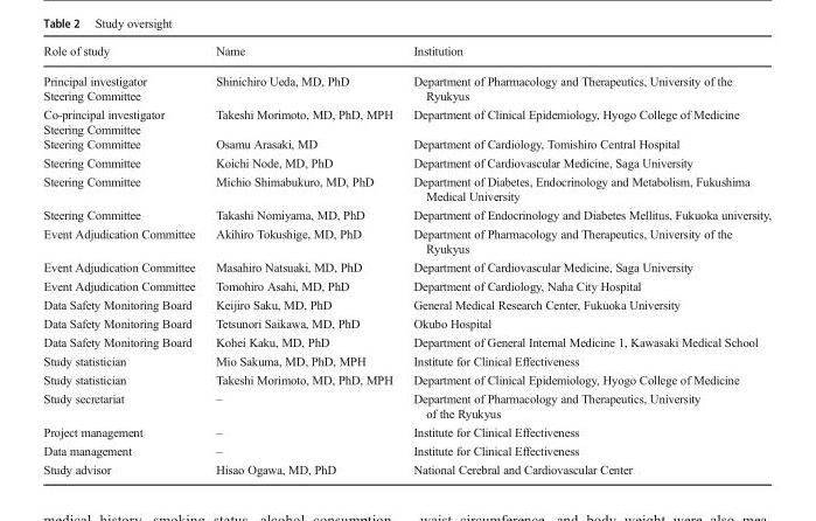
<table><thead><tr><td>Role of study</td><td>Name</td><td>Institution</td></tr></thead><tbody><tr><td>Principal investigator Steering Committee</td><td>Shinichiro Ueda, MD, PhD</td><td>Department of Pharmacology and Therapeutics, University of the Ryukyus</td></tr><tr><td>Co-principal investigator Steering Committee</td><td>Takeshi Morimoto, MD, PhD, MPH</td><td>Department of Clinical Epidemiology, Hyogo College of Medicine</td></tr><tr><td>Steering Committee</td><td>Osamu Arasaki, MD</td><td>Department of Cardiology, Tomishiro Central Hospital</td></tr><tr><td>Steering Committee</td><td>Koichi Node, MD, PhD</td><td>Department of Cardiovascular Medicine, Saga University</td></tr><tr><td>Steering Committee</td><td>Michio Shimabukuro, MD, PhD</td><td>Department of Diabetes, Endocrinology and Metabolism, Fukushima Medical University</td></tr><tr><td>Steering Committee</td><td>Takashi Nomiyama, MD, PhD</td><td>Department of Endocrinology and Diabetes Mellitus, Fukuoka university,</td></tr><tr><td>Event Adjudication Committee</td><td>Akihiro Tokushige, MD, PhD</td><td>Department of Pharmacology and Therapeutics, University of the Ryukyus</td></tr><tr><td>Event Adjudication Committee</td><td>Masahiro Natsuaki, MD, PhD</td><td>Department of Cardiovascular Medicine, Saga University</td></tr><tr><td>Event Adjudication Committee</td><td>Tomohiro Asahi, MD, PhD</td><td>Department of Cardiology, Naha City Hospital</td></tr><tr><td>Data Safety Monitoring Board</td><td>Keijiro Saku, MD, PhD</td><td>General Medical Research Center, Fukuoka University</td></tr><tr><td>Data Safety Monitoring Board</td><td>Tetsunori Saikawa, MD, PhD</td><td>Okubo Hospital</td></tr><tr><td>Data Safety Monitoring Board</td><td>Kohei Kaku, MD, PhD</td><td>Department of General Internal Medicine 1, Kawasaki Medical School</td></tr><tr><td>Study statistician</td><td>Mio Sakuma, MD, PhD, MPH</td><td>Institute for Clinical Effectiveness</td></tr><tr><td>Study statistician</td><td>Takeshi Morimoto, MD, PhD, MPH</td><td>Department of Clinical Epidemiology, Hyogo College of Medicine</td></tr><tr><td>Study secretariat</td><td>–</td><td>Department of Pharmacology and Therapeutics, University of the Ryukyus</td></tr><tr><td>Project management</td><td>–</td><td>Institute for Clinical Effectiveness</td></tr><tr><td>Data management</td><td>–</td><td>Institute for Clinical Effectiveness</td></tr><tr><td>Study advisor</td><td>Hisao Ogawa, MD, PhD</td><td>National Cerebral and Cardiovascular Center</td></tr></tbody></table>